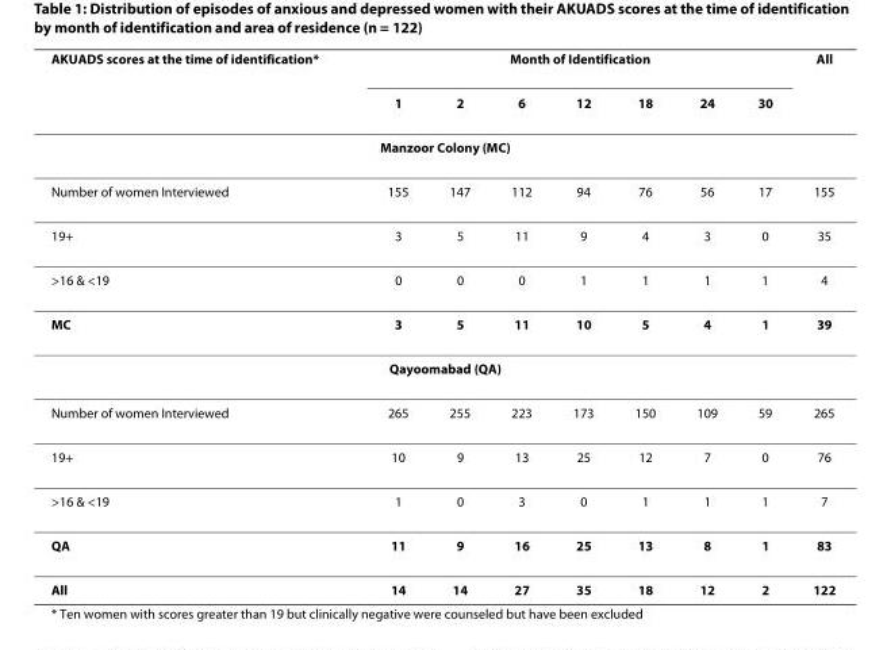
<table><thead><tr><td rowspan="2">AKUADS scores at the time of identification*</td><td colspan="7">Month of Identification</td><td rowspan="2">All</td></tr><tr><td>1</td><td>2</td><td>6</td><td>12</td><td>18</td><td>24</td><td>30</td></tr></thead><tbody><tr><td colspan="9">Manzoor Colony (MC)</td></tr><tr><td>Number of women Interviewed</td><td>155</td><td>147</td><td>112</td><td>94</td><td>76</td><td>56</td><td>17</td><td>155</td></tr><tr><td>19+</td><td>3</td><td>5</td><td>11</td><td>9</td><td>4</td><td>3</td><td>0</td><td>35</td></tr><tr><td>&gt;16 &amp; &lt;19</td><td>0</td><td>0</td><td>0</td><td>1</td><td>1</td><td>1</td><td>1</td><td>4</td></tr><tr><td>MC</td><td>3</td><td>5</td><td>11</td><td>10</td><td>5</td><td>4</td><td>1</td><td>39</td></tr><tr><td colspan="9">Qayoomabad (QA)</td></tr><tr><td>Number of women Interviewed</td><td>265</td><td>255</td><td>223</td><td>173</td><td>150</td><td>109</td><td>59</td><td>265</td></tr><tr><td>19+</td><td>10</td><td>9</td><td>13</td><td>25</td><td>12</td><td>7</td><td>0</td><td>76</td></tr><tr><td>&gt;16 &amp; &lt;19</td><td>1</td><td>0</td><td>3</td><td>0</td><td>1</td><td>1</td><td>1</td><td>7</td></tr><tr><td>QA</td><td>11</td><td>9</td><td>16</td><td>25</td><td>13</td><td>8</td><td>1</td><td>83</td></tr><tr><td>All</td><td>14</td><td>14</td><td>27</td><td>35</td><td>18</td><td>12</td><td>2</td><td>122</td></tr></tbody></table>